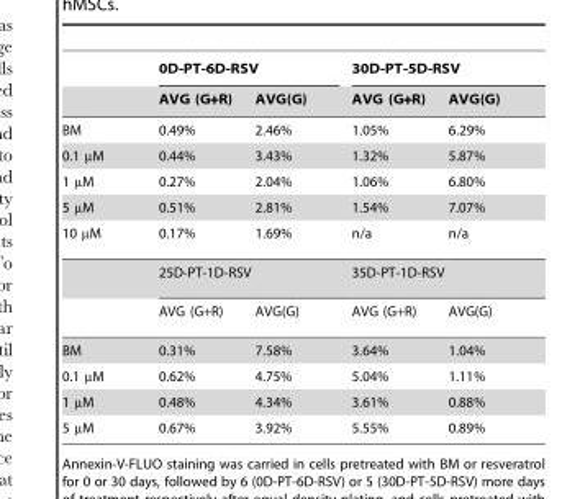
<table><thead><tr><td rowspan="2"></td><td colspan="2">0D-PT-6D-RSV</td><td colspan="2">30D-PT-5D-RSV</td></tr><tr><td>AVG (G+R)</td><td>AVG(G)</td><td>AVG (G+R)</td><td>AVG(G)</td></tr></thead><tbody><tr><td>BM</td><td>0.49%</td><td>2.46%</td><td>1.05%</td><td>6.29%</td></tr><tr><td>0.1 µM</td><td>0.44%</td><td>3.43%</td><td>1.32%</td><td>5.87%</td></tr><tr><td>1 µM</td><td>0.27%</td><td>2.04%</td><td>1.06%</td><td>6.80%</td></tr><tr><td>5 µM</td><td>0.51%</td><td>2.81%</td><td>1.54%</td><td>7.07%</td></tr><tr><td rowspan="3">10 µM</td><td>0.17%</td><td>1.69%</td><td>n/a</td><td>n/a</td></tr><tr><td colspan="2">25D-PT-1D-RSV</td><td colspan="2">35D-PT-1D-RSV</td></tr><tr><td>AVG (G+R)</td><td>AVG(G)</td><td>AVG (G+R)</td><td>AVG(G)</td></tr><tr><td>BM</td><td>0.31%</td><td>7.58%</td><td>3.64%</td><td>1.04%</td></tr><tr><td>0.1 µM</td><td>0.62%</td><td>4.75%</td><td>5.04%</td><td>1.11%</td></tr><tr><td>1 µM</td><td>0.48%</td><td>4.34%</td><td>3.61%</td><td>0.88%</td></tr><tr><td>5 µM</td><td>0.67%</td><td>3.92%</td><td>5.55%</td><td>0.89%</td></tr></tbody></table>